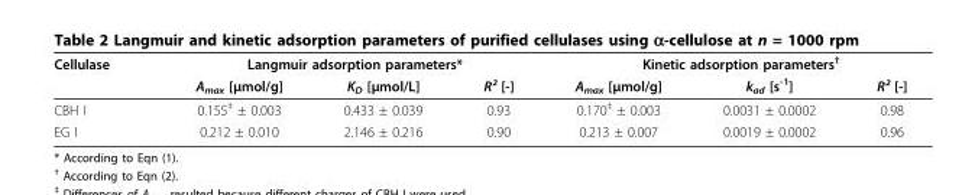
<table><thead><tr><td rowspan="2">Cellulase</td><td colspan="3">Langmuir adsorption parameters*</td><td colspan="3">Kinetic adsorption parameters<sup>†</sup></td></tr><tr><td>A<sub>max</sub> [μmol/g]</td><td>K<sub>D</sub> [μmol/L]</td><td>R² [-]</td><td>A<sub>max</sub> [μmol/g]</td><td>k<sub>ad</sub> [s<sup>-1</sup>]</td><td>R² [-]</td></tr></thead><tbody><tr><td>CBH I</td><td>0.155<sup>‡</sup> ± 0.003</td><td>0.433 ± 0.039</td><td>0.93</td><td>0.170<sup>‡</sup> ± 0.003</td><td>0.0031 ± 0.0002</td><td>0.98</td></tr><tr><td>EG I</td><td>0.212 ± 0.010</td><td>2.146 ± 0.216</td><td>0.90</td><td>0.213 ± 0.007</td><td>0.0019 ± 0.0002</td><td>0.96</td></tr></tbody></table>